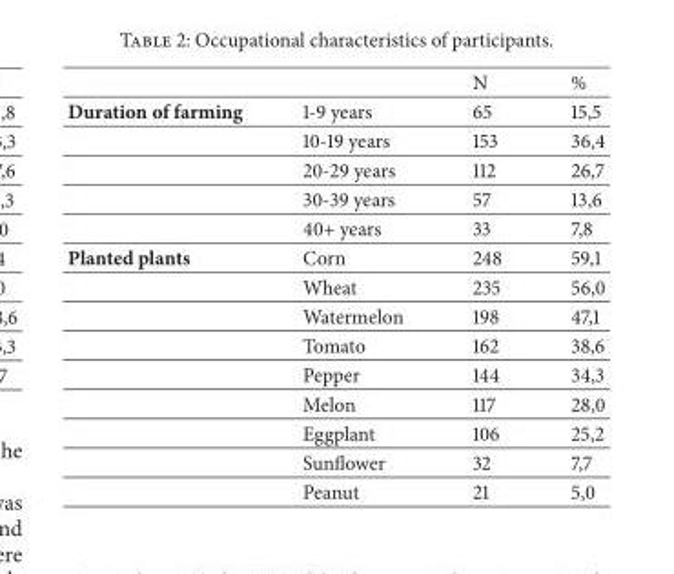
<table><thead><tr><td></td><td></td><td>N</td><td>%</td></tr></thead><tbody><tr><td rowspan="5">Duration of farming</td><td>1-9 years</td><td>65</td><td>15,5</td></tr><tr><td>10-19 years</td><td>153</td><td>36,4</td></tr><tr><td>20-29 years</td><td>112</td><td>26,7</td></tr><tr><td>30-39 years</td><td>57</td><td>13,6</td></tr><tr><td>40+ years</td><td>33</td><td>7,8</td></tr><tr><td rowspan="9">Planted plants</td><td>Corn</td><td>248</td><td>59,1</td></tr><tr><td>Wheat</td><td>235</td><td>56,0</td></tr><tr><td>Watermelon</td><td>198</td><td>47,1</td></tr><tr><td>Tomato</td><td>162</td><td>38,6</td></tr><tr><td>Pepper</td><td>144</td><td>34,3</td></tr><tr><td>Melon</td><td>117</td><td>28,0</td></tr><tr><td>Eggplant</td><td>106</td><td>25,2</td></tr><tr><td>Sunflower</td><td>32</td><td>7,7</td></tr><tr><td>Peanut</td><td>21</td><td>5,0</td></tr></tbody></table>